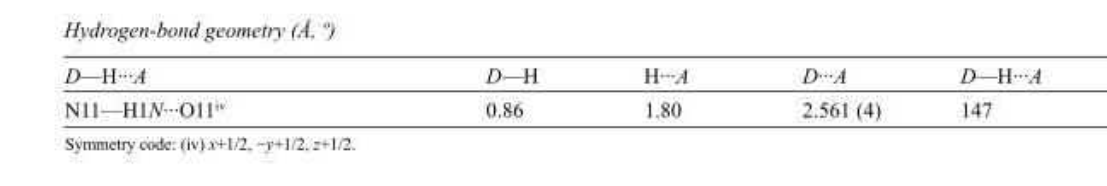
<table><tbody><tr><td>D—H···A</td><td>D—H</td><td>H···A</td><td>D···A</td><td>D—H···A</td></tr><tr><td>N11—H1N···O11<sup>iv</sup></td><td>0.86</td><td>1.80</td><td>2.561 (4)</td><td>147</td></tr></tbody></table>